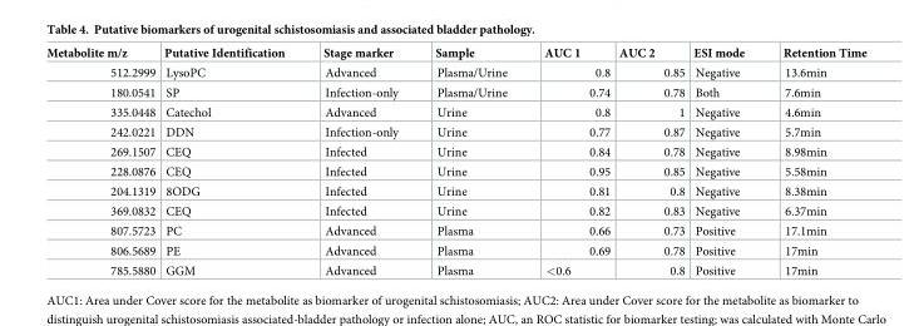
<table><thead><tr><td>Metabolite m/z</td><td>Putative Identification</td><td>Stage marker</td><td>Sample</td><td>AUC 1</td><td>AUC 2</td><td>ESI mode</td><td>Retention Time</td></tr></thead><tbody><tr><td>512.2999</td><td>LysoPC</td><td>Advanced</td><td>Plasma/Urine</td><td>0.8</td><td>0.85</td><td>Negative</td><td>13.6min</td></tr><tr><td>180.0541</td><td>SP</td><td>Infection-only</td><td>Plasma/Urine</td><td>0.74</td><td>0.78</td><td>Both</td><td>7.6min</td></tr><tr><td>335.0448</td><td>Catechol</td><td>Advanced</td><td>Urine</td><td>0.8</td><td>1</td><td>Negative</td><td>4.6min</td></tr><tr><td>242.0221</td><td>DDN</td><td>Infection-only</td><td>Urine</td><td>0.77</td><td>0.87</td><td>Negative</td><td>5.7min</td></tr><tr><td>269.1507</td><td>CEQ</td><td>Infected</td><td>Urine</td><td>0.84</td><td>0.78</td><td>Negative</td><td>8.98min</td></tr><tr><td>228.0876</td><td>CEQ</td><td>Infected</td><td>Urine</td><td>0.95</td><td>0.85</td><td>Negative</td><td>5.58min</td></tr><tr><td>204.1319</td><td>8ODG</td><td>Infected</td><td>Urine</td><td>0.81</td><td>0.8</td><td>Negative</td><td>8.38min</td></tr><tr><td>369.0832</td><td>CEQ</td><td>Infected</td><td>Urine</td><td>0.82</td><td>0.83</td><td>Negative</td><td>6.37min</td></tr><tr><td>807.5723</td><td>PC</td><td>Advanced</td><td>Plasma</td><td>0.66</td><td>0.73</td><td>Positive</td><td>17.1min</td></tr><tr><td>806.5689</td><td>PE</td><td>Advanced</td><td>Plasma</td><td>0.69</td><td>0.78</td><td>Positive</td><td>17min</td></tr><tr><td>785.5880</td><td>GGM</td><td>Advanced</td><td>Plasma</td><td>&lt;0.6</td><td>0.8</td><td>Positive</td><td>17min</td></tr></tbody></table>